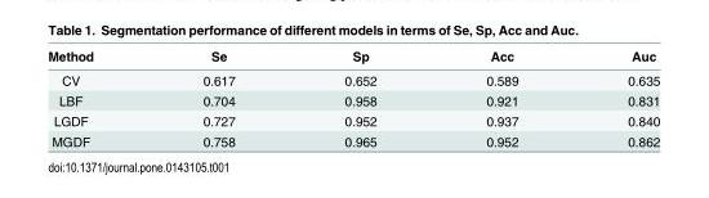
<table><thead><tr><td>Method</td><td>Se</td><td>Sp</td><td>Acc</td><td>Auc</td></tr></thead><tbody><tr><td>CV</td><td>0.617</td><td>0.652</td><td>0.589</td><td>0.635</td></tr><tr><td>LBF</td><td>0.704</td><td>0.958</td><td>0.921</td><td>0.831</td></tr><tr><td>LGDF</td><td>0.727</td><td>0.952</td><td>0.937</td><td>0.840</td></tr><tr><td>MGDF</td><td>0.758</td><td>0.965</td><td>0.952</td><td>0.862</td></tr></tbody></table>